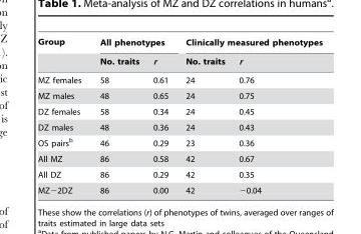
<table><thead><tr><td rowspan="2">Group</td><td colspan="2">All phenotypes</td><td colspan="2">Clinically measured phenotypes</td></tr><tr><td>No. traits</td><td>r</td><td>No. traits</td><td>r</td></tr></thead><tbody><tr><td>MZ females</td><td>58</td><td>0.61</td><td>24</td><td>0.76</td></tr><tr><td>MZ males</td><td>48</td><td>0.65</td><td>24</td><td>0.75</td></tr><tr><td>DZ females</td><td>58</td><td>0.34</td><td>24</td><td>0.45</td></tr><tr><td>DZ males</td><td>48</td><td>0.36</td><td>24</td><td>0.43</td></tr><tr><td>OS pairs<sup>b</sup></td><td>46</td><td>0.29</td><td>23</td><td>0.36</td></tr><tr><td>All MZ</td><td>86</td><td>0.58</td><td>42</td><td>0.67</td></tr><tr><td>All DZ</td><td>86</td><td>0.29</td><td>42</td><td>0.35</td></tr><tr><td>MZ−2DZ</td><td>86</td><td>0.00</td><td>42</td><td>−0.04</td></tr></tbody></table>